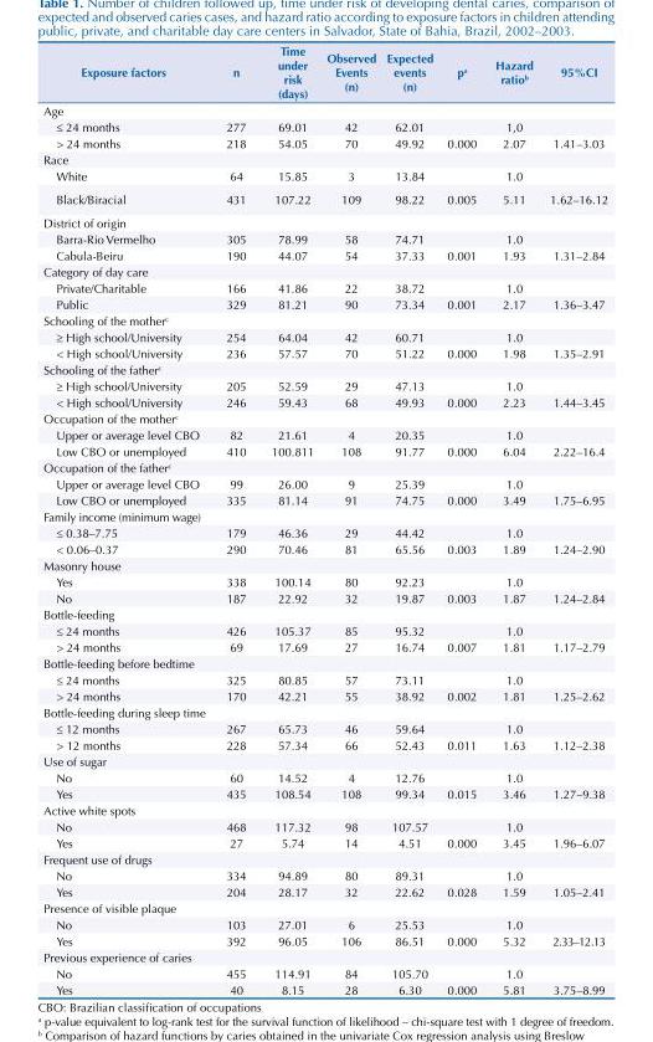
<table><thead><tr><td>Exposure factors</td><td>n</td><td>Time under risk (days)</td><td>Observed Events (n)</td><td>Expected events (n)</td><td>p<sup>a</sup></td><td>Hazard ratio<sup>b</sup></td><td>95%CI</td></tr></thead><tbody><tr><td colspan="8">Age</td></tr><tr><td>≤ 24 months</td><td>277</td><td>69.01</td><td>42</td><td>62.01</td><td></td><td>1,0</td><td></td></tr><tr><td>&gt; 24 months</td><td>218</td><td>54.05</td><td>70</td><td>49.92</td><td>0.000</td><td>2.07</td><td>1.41–3.03</td></tr><tr><td colspan="8">Race</td></tr><tr><td>White</td><td>64</td><td>15.85</td><td>3</td><td>13.84</td><td></td><td>1.0</td><td></td></tr><tr><td>Black/Biracial</td><td>431</td><td>107.22</td><td>109</td><td>98.22</td><td>0.005</td><td>5.11</td><td>1.62–16.12</td></tr><tr><td colspan="8">District of origin</td></tr><tr><td>Barra-Rio Vermelho</td><td>305</td><td>78.99</td><td>58</td><td>74.71</td><td></td><td>1.0</td><td></td></tr><tr><td>Cabula-Beiru</td><td>190</td><td>44.07</td><td>54</td><td>37.33</td><td>0.001</td><td>1.93</td><td>1.31–2.84</td></tr><tr><td colspan="8">Category of day care</td></tr><tr><td>Private/Charitable</td><td>166</td><td>41.86</td><td>22</td><td>38.72</td><td></td><td>1.0</td><td></td></tr><tr><td>Public</td><td>329</td><td>81.21</td><td>90</td><td>73.34</td><td>0.001</td><td>2.17</td><td>1.36–3.47</td></tr><tr><td colspan="8">Schooling of the mother<sup>c</sup></td></tr><tr><td>≥ High school/University</td><td>254</td><td>64.04</td><td>42</td><td>60.71</td><td></td><td>1.0</td><td></td></tr><tr><td>&lt; High school/University</td><td>236</td><td>57.57</td><td>70</td><td>51.22</td><td>0.000</td><td>1.98</td><td>1.35–2.91</td></tr><tr><td colspan="8">Schooling of the father<sup>c</sup></td></tr><tr><td>≥ High school/University</td><td>205</td><td>52.59</td><td>29</td><td>47.13</td><td></td><td>1.0</td><td></td></tr><tr><td>&lt; High school/University</td><td>246</td><td>59.43</td><td>68</td><td>49.93</td><td>0.000</td><td>2.23</td><td>1.44–3.45</td></tr><tr><td colspan="8">Occupation of the mother<sup>c</sup></td></tr><tr><td>Upper or average level CBO</td><td>82</td><td>21.61</td><td>4</td><td>20.35</td><td></td><td>1.0</td><td></td></tr><tr><td>Low CBO or unemployed</td><td>410</td><td>100.811</td><td>108</td><td>91.77</td><td>0.000</td><td>6.04</td><td>2.22–16.4</td></tr><tr><td colspan="8">Occupation of the father<sup>c</sup></td></tr><tr><td>Upper or average level CBO</td><td>99</td><td>26.00</td><td>9</td><td>25.39</td><td></td><td>1.0</td><td></td></tr><tr><td>Low CBO or unemployed</td><td>335</td><td>81.14</td><td>91</td><td>74.75</td><td>0.000</td><td>3.49</td><td>1.75–6.95</td></tr><tr><td colspan="8">Family income (minimum wage)</td></tr><tr><td>≤ 0.38–7.75</td><td>179</td><td>46.36</td><td>29</td><td>44.42</td><td></td><td>1.0</td><td></td></tr><tr><td>&lt; 0.06–0.37</td><td>290</td><td>70.46</td><td>81</td><td>65.56</td><td>0.003</td><td>1.89</td><td>1.24–2.90</td></tr><tr><td colspan="8">Masonry house</td></tr><tr><td>Yes</td><td>338</td><td>100.14</td><td>80</td><td>92.23</td><td></td><td>1.0</td><td></td></tr><tr><td>No</td><td>187</td><td>22.92</td><td>32</td><td>19.87</td><td>0.003</td><td>1.87</td><td>1.24–2.84</td></tr><tr><td colspan="8">Bottle-feeding</td></tr><tr><td>≤ 24 months</td><td>426</td><td>105.37</td><td>85</td><td>95.32</td><td></td><td>1.0</td><td></td></tr><tr><td>&gt; 24 months</td><td>69</td><td>17.69</td><td>27</td><td>16.74</td><td>0.007</td><td>1.81</td><td>1.17–2.79</td></tr><tr><td colspan="8">Bottle-feeding before bedtime</td></tr><tr><td>≤ 24 months</td><td>325</td><td>80.85</td><td>57</td><td>73.11</td><td></td><td>1.0</td><td></td></tr><tr><td>&gt; 24 months</td><td>170</td><td>42.21</td><td>55</td><td>38.92</td><td>0.002</td><td>1.81</td><td>1.25–2.62</td></tr><tr><td colspan="8">Bottle-feeding during sleep time</td></tr><tr><td>≤ 12 months</td><td>267</td><td>65.73</td><td>46</td><td>59.64</td><td></td><td>1.0</td><td></td></tr><tr><td>&gt; 12 months</td><td>228</td><td>57.34</td><td>66</td><td>52.43</td><td>0.011</td><td>1.63</td><td>1.12–2.38</td></tr><tr><td colspan="8">Use of sugar</td></tr><tr><td>No</td><td>60</td><td>14.52</td><td>4</td><td>12.76</td><td></td><td>1.0</td><td></td></tr><tr><td>Yes</td><td>435</td><td>108.54</td><td>108</td><td>99.34</td><td>0.015</td><td>3.46</td><td>1.27–9.38</td></tr><tr><td colspan="8">Active white spots</td></tr><tr><td>No</td><td>468</td><td>117.32</td><td>98</td><td>107.57</td><td></td><td>1.0</td><td></td></tr><tr><td>Yes</td><td>27</td><td>5.74</td><td>14</td><td>4.51</td><td>0.000</td><td>3.45</td><td>1.96–6.07</td></tr><tr><td colspan="8">Frequent use of drugs</td></tr><tr><td>No</td><td>334</td><td>94.89</td><td>80</td><td>89.31</td><td></td><td>1.0</td><td></td></tr><tr><td>Yes</td><td>204</td><td>28.17</td><td>32</td><td>22.62</td><td>0.028</td><td>1.59</td><td>1.05–2.41</td></tr><tr><td colspan="8">Presence of visible plaque</td></tr><tr><td>No</td><td>103</td><td>27.01</td><td>6</td><td>25.53</td><td></td><td>1.0</td><td></td></tr><tr><td>Yes</td><td>392</td><td>96.05</td><td>106</td><td>86.51</td><td>0.000</td><td>5.32</td><td>2.33–12.13</td></tr><tr><td colspan="8">Previous experience of caries</td></tr><tr><td>No</td><td>455</td><td>114.91</td><td>84</td><td>105.70</td><td></td><td>1.0</td><td></td></tr><tr><td>Yes</td><td>40</td><td>8.15</td><td>28</td><td>6.30</td><td>0.000</td><td>5.81</td><td>3.75–8.99</td></tr></tbody></table>